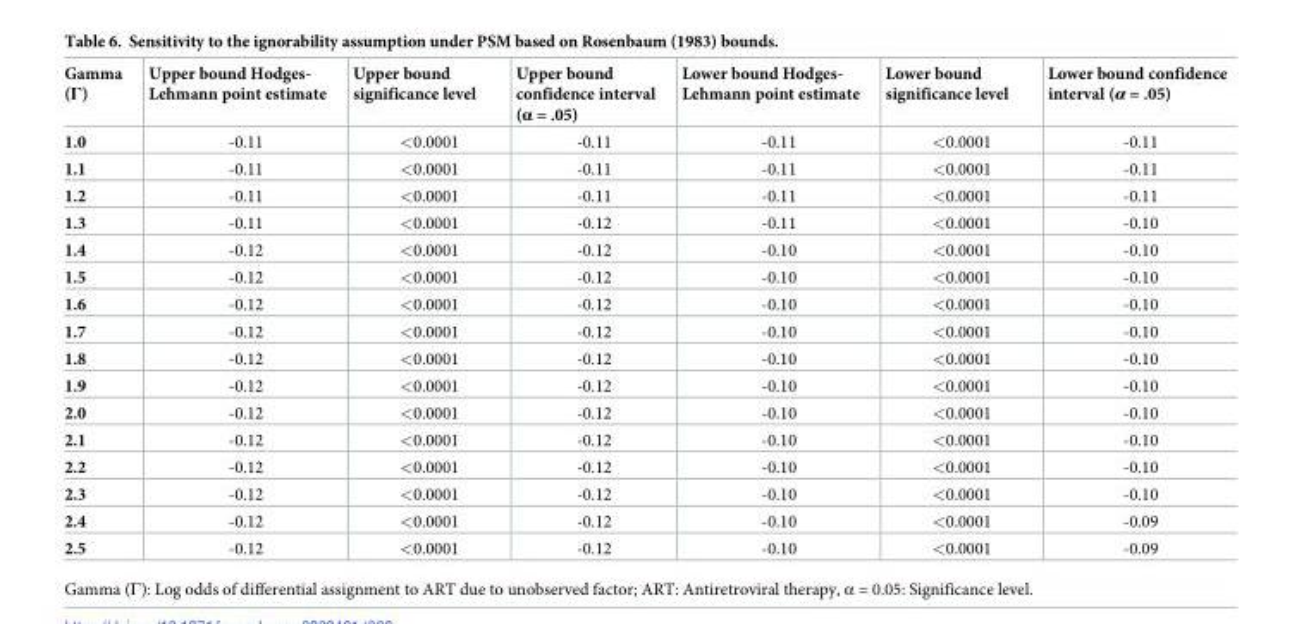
<table><thead><tr><td>Gamma (Γ)</td><td>Upper bound Hodges- Lehmann point estimate</td><td>Upper bound significance level</td><td>Upper bound confidence interval (α = .05)</td><td>Lower bound Hodges- Lehmann point estimate</td><td>Lower bound significance level</td><td>Lower bound confidence interval (α = .05)</td></tr></thead><tbody><tr><td>1.0</td><td>-0.11</td><td>&lt;0.0001</td><td>-0.11</td><td>-0.11</td><td>&lt;0.0001</td><td>-0.11</td></tr><tr><td>1.1</td><td>-0.11</td><td>&lt;0.0001</td><td>-0.11</td><td>-0.11</td><td>&lt;0.0001</td><td>-0.11</td></tr><tr><td>1.2</td><td>-0.11</td><td>&lt;0.0001</td><td>-0.11</td><td>-0.11</td><td>&lt;0.0001</td><td>-0.11</td></tr><tr><td>1.3</td><td>-0.11</td><td>&lt;0.0001</td><td>-0.12</td><td>-0.11</td><td>&lt;0.0001</td><td>-0.10</td></tr><tr><td>1.4</td><td>-0.12</td><td>&lt;0.0001</td><td>-0.12</td><td>-0.10</td><td>&lt;0.0001</td><td>-0.10</td></tr><tr><td>1.5</td><td>-0.12</td><td>&lt;0.0001</td><td>-0.12</td><td>-0.10</td><td>&lt;0.0001</td><td>-0.10</td></tr><tr><td>1.6</td><td>-0.12</td><td>&lt;0.0001</td><td>-0.12</td><td>-0.10</td><td>&lt;0.0001</td><td>-0.10</td></tr><tr><td>1.7</td><td>-0.12</td><td>&lt;0.0001</td><td>-0.12</td><td>-0.10</td><td>&lt;0.0001</td><td>-0.10</td></tr><tr><td>1.8</td><td>-0.12</td><td>&lt;0.0001</td><td>-0.12</td><td>-0.10</td><td>&lt;0.0001</td><td>-0.10</td></tr><tr><td>1.9</td><td>-0.12</td><td>&lt;0.0001</td><td>-0.12</td><td>-0.10</td><td>&lt;0.0001</td><td>-0.10</td></tr><tr><td>2.0</td><td>-0.12</td><td>&lt;0.0001</td><td>-0.12</td><td>-0.10</td><td>&lt;0.0001</td><td>-0.10</td></tr><tr><td>2.1</td><td>-0.12</td><td>&lt;0.0001</td><td>-0.12</td><td>-0.10</td><td>&lt;0.0001</td><td>-0.10</td></tr><tr><td>2.2</td><td>-0.12</td><td>&lt;0.0001</td><td>-0.12</td><td>-0.10</td><td>&lt;0.0001</td><td>-0.10</td></tr><tr><td>2.3</td><td>-0.12</td><td>&lt;0.0001</td><td>-0.12</td><td>-0.10</td><td>&lt;0.0001</td><td>-0.10</td></tr><tr><td>2.4</td><td>-0.12</td><td>&lt;0.0001</td><td>-0.12</td><td>-0.10</td><td>&lt;0.0001</td><td>-0.09</td></tr><tr><td>2.5</td><td>-0.12</td><td>&lt;0.0001</td><td>-0.12</td><td>-0.10</td><td>&lt;0.0001</td><td>-0.09</td></tr></tbody></table>